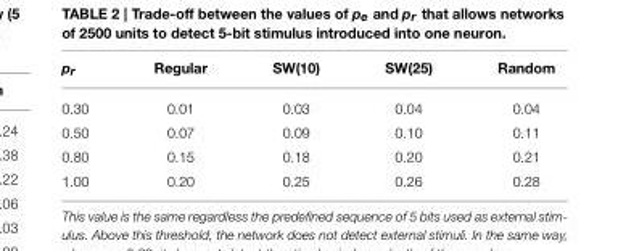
<table><thead><tr><td>p<sub>r</sub></td><td>Regular</td><td>SW(10)</td><td>SW(25)</td><td>Random</td></tr></thead><tbody><tr><td>0.30</td><td>0.01</td><td>0.03</td><td>0.04</td><td>0.04</td></tr><tr><td>0.50</td><td>0.07</td><td>0.09</td><td>0.10</td><td>0.11</td></tr><tr><td>0.80</td><td>0.15</td><td>0.18</td><td>0.20</td><td>0.21</td></tr><tr><td>1.00</td><td>0.20</td><td>0.25</td><td>0.26</td><td>0.28</td></tr></tbody></table>